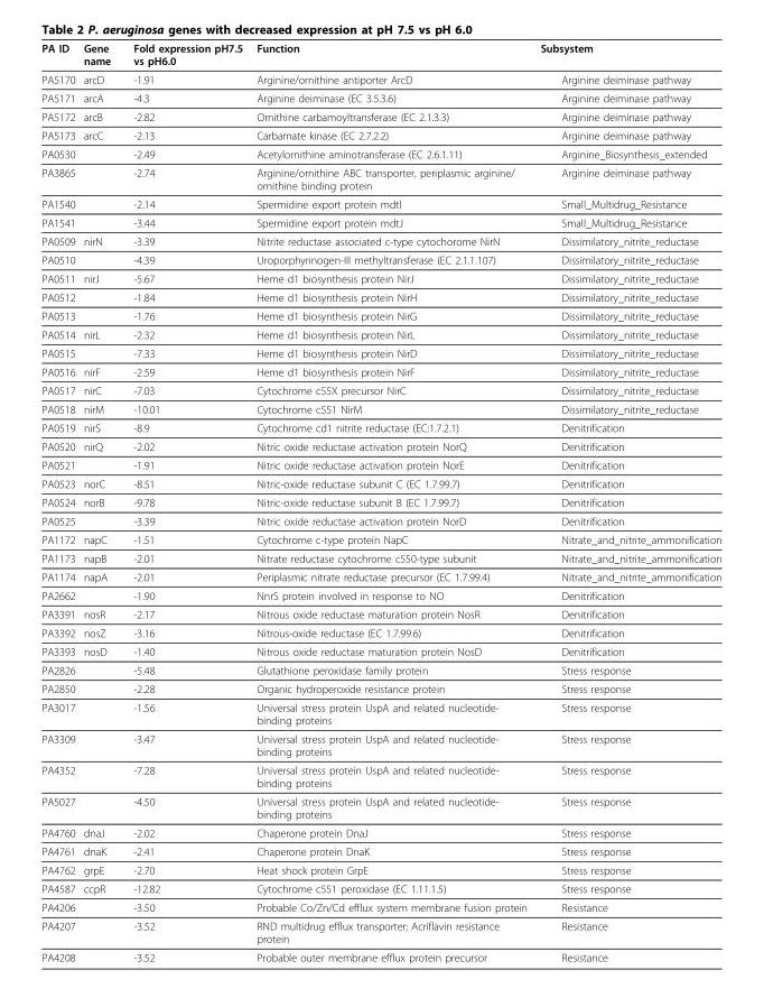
<table><thead><tr><td>PA ID</td><td>Gene name</td><td>Fold expression pH7.5 vs pH6.0</td><td>Function</td><td>Subsystem</td></tr></thead><tbody><tr><td>PA5170</td><td>arcD</td><td>-1.91</td><td>Arginine/ornithine antiporter ArcD</td><td>Arginine deiminase pathway</td></tr><tr><td>PA5171</td><td>arcA</td><td>-4.3</td><td>Arginine deiminase (EC 3.5.3.6)</td><td>Arginine deiminase pathway</td></tr><tr><td>PA5172</td><td>arcB</td><td>-2.82</td><td>Ornithine carbamoyltransferase (EC 2.1.3.3)</td><td>Arginine deiminase pathway</td></tr><tr><td>PA5173</td><td>arcC</td><td>-2.13</td><td>Carbamate kinase (EC 2.7.2.2)</td><td>Arginine deiminase pathway</td></tr><tr><td>PA0530</td><td></td><td>-2.49</td><td>Acetylornithine aminotransferase (EC 2.6.1.11)</td><td>Arginine_Biosynthesis_extended</td></tr><tr><td>PA3865</td><td></td><td>-2.74</td><td>Arginine/ornithine ABC transporter, periplasmic arginine/ ornithine binding protein</td><td>Arginine deiminase pathway</td></tr><tr><td>PA1540</td><td></td><td>-2.14</td><td>Spermidine export protein mdtI</td><td>Small_Multidrug_Resistance</td></tr><tr><td>PA1541</td><td></td><td>-3.44</td><td>Spermidine export protein mdtJ</td><td>Small_Multidrug_Resistance</td></tr><tr><td>PA0509</td><td>nirN</td><td>-3.39</td><td>Nitrite reductase associated c-type cytochorome NirN</td><td>Dissimilatory_nitrite_reductase</td></tr><tr><td>PA0510</td><td></td><td>-4.39</td><td>Uroporphyrinogen-III methyltransferase (EC 2.1.1.107)</td><td>Dissimilatory_nitrite_reductase</td></tr><tr><td>PA0511</td><td>nirJ</td><td>-5.67</td><td>Heme d1 biosynthesis protein NirJ</td><td>Dissimilatory_nitrite_reductase</td></tr><tr><td>PA0512</td><td></td><td>-1.84</td><td>Heme d1 biosynthesis protein NirH</td><td>Dissimilatory_nitrite_reductase</td></tr><tr><td>PA0513</td><td></td><td>-1.76</td><td>Heme d1 biosynthesis protein NirG</td><td>Dissimilatory_nitrite_reductase</td></tr><tr><td>PA0514</td><td>nirL</td><td>-2.32</td><td>Heme d1 biosynthesis protein NirL</td><td>Dissimilatory_nitrite_reductase</td></tr><tr><td>PA0515</td><td></td><td>-7.33</td><td>Heme d1 biosynthesis protein NirD</td><td>Dissimilatory_nitrite_reductase</td></tr><tr><td>PA0516</td><td>nirF</td><td>-2.59</td><td>Heme d1 biosynthesis protein NirF</td><td>Dissimilatory_nitrite_reductase</td></tr><tr><td>PA0517</td><td>nirC</td><td>-7.03</td><td>Cytochrome c55X precursor NirC</td><td>Dissimilatory_nitrite_reductase</td></tr><tr><td>PA0518</td><td>nirM</td><td>-10.01</td><td>Cytochrome c551 NirM</td><td>Dissimilatory_nitrite_reductase</td></tr><tr><td>PA0519</td><td>nirS</td><td>-8.9</td><td>Cytochrome cd1 nitrite reductase (EC:1.7.2.1)</td><td>Denitrification</td></tr><tr><td>PA0520</td><td>nirQ</td><td>-2.02</td><td>Nitric oxide reductase activation protein NorQ</td><td>Denitrification</td></tr><tr><td>PA0521</td><td></td><td>-1.91</td><td>Nitric oxide reductase activation protein NorE</td><td>Denitrification</td></tr><tr><td>PA0523</td><td>norC</td><td>-8.51</td><td>Nitric-oxide reductase subunit C (EC 1.7.99.7)</td><td>Denitrification</td></tr><tr><td>PA0524</td><td>norB</td><td>-9.78</td><td>Nitric-oxide reductase subunit B (EC 1.7.99.7)</td><td>Denitrification</td></tr><tr><td>PA0525</td><td></td><td>-3.39</td><td>Nitric oxide reductase activation protein NorD</td><td>Denitrification</td></tr><tr><td>PA1172</td><td>napC</td><td>-1.51</td><td>Cytochrome c-type protein NapC</td><td>Nitrate_and_nitrite_ammonification</td></tr><tr><td>PA1173</td><td>napB</td><td>-2.01</td><td>Nitrate reductase cytochrome c550-type subunit</td><td>Nitrate_and_nitrite_ammonification</td></tr><tr><td>PA1174</td><td>napA</td><td>-2.01</td><td>Periplasmic nitrate reductase precursor (EC 1.7.99.4)</td><td>Nitrate_and_nitrite_ammonification</td></tr><tr><td>PA2662</td><td></td><td>-1.90</td><td>NnrS protein involved in response to NO</td><td>Denitrification</td></tr><tr><td>PA3391</td><td>nosR</td><td>-2.17</td><td>Nitrous oxide reductase maturation protein NosR</td><td>Denitrification</td></tr><tr><td>PA3392</td><td>nosZ</td><td>-3.16</td><td>Nitrous-oxide reductase (EC 1.7.99.6)</td><td>Denitrification</td></tr><tr><td>PA3393</td><td>nosD</td><td>-1.40</td><td>Nitrous oxide reductase maturation protein NosD</td><td>Denitrification</td></tr><tr><td>PA2826</td><td></td><td>-5.48</td><td>Glutathione peroxidase family protein</td><td>Stress response</td></tr><tr><td>PA2850</td><td></td><td>-2.28</td><td>Organic hydroperoxide resistance protein</td><td>Stress response</td></tr><tr><td>PA3017</td><td></td><td>-1.56</td><td>Universal stress protein UspA and related nucleotide- binding proteins</td><td>Stress response</td></tr><tr><td>PA3309</td><td></td><td>-3.47</td><td>Universal stress protein UspA and related nucleotide- binding proteins</td><td>Stress response</td></tr><tr><td>PA4352</td><td></td><td>-7.28</td><td>Universal stress protein UspA and related nucleotide- binding proteins</td><td>Stress response</td></tr><tr><td>PA5027</td><td></td><td>-4.50</td><td>Universal stress protein UspA and related nucleotide- binding proteins</td><td>Stress response</td></tr><tr><td>PA4760</td><td>dnaJ</td><td>-2.02</td><td>Chaperone protein DnaJ</td><td>Stress response</td></tr><tr><td>PA4761</td><td>dnaK</td><td>-2.41</td><td>Chaperone protein DnaK</td><td>Stress response</td></tr><tr><td>PA4762</td><td>grpE</td><td>-2.70</td><td>Heat shock protein GrpE</td><td>Stress response</td></tr><tr><td>PA4587</td><td>ccpR</td><td>-12.82</td><td>Cytochrome c551 peroxidase (EC 1.11.1.5)</td><td>Stress response</td></tr><tr><td>PA4206</td><td></td><td>-3.50</td><td>Probable Co/Zn/Cd efflux system membrane fusion protein</td><td>Resistance</td></tr><tr><td>PA4207</td><td></td><td>-3.52</td><td>RND multidrug efflux transporter; Acriflavin resistance protein</td><td>Resistance</td></tr><tr><td>PA4208</td><td></td><td>-3.52</td><td>Probable outer membrane efflux protein precursor</td><td>Resistance</td></tr></tbody></table>